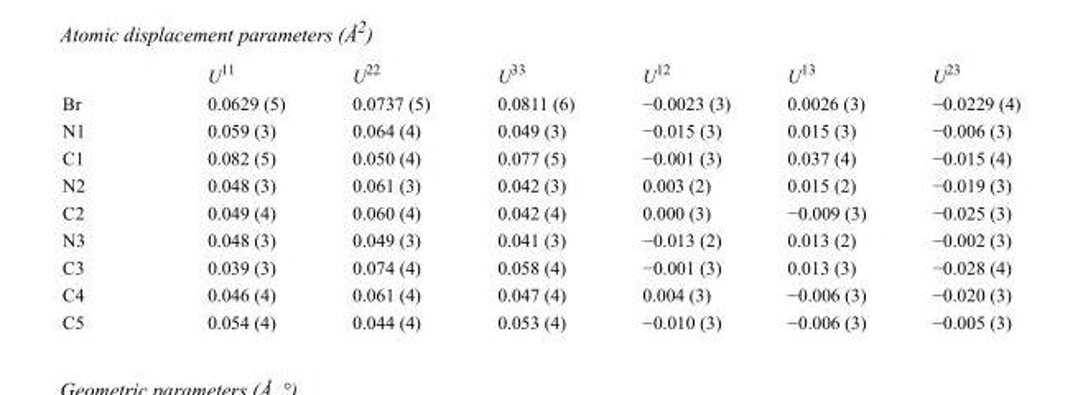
<table><thead><tr><td></td><td>U<sup>11</sup></td><td>U<sup>22</sup></td><td>U<sup>33</sup></td><td>U<sup>12</sup></td><td>U<sup>13</sup></td><td>U<sup>23</sup></td></tr></thead><tbody><tr><td>Br</td><td>0.0629 (5)</td><td>0.0737 (5)</td><td>0.0811 (6)</td><td>−0.0023 (3)</td><td>0.0026 (3)</td><td>−0.0229 (4)</td></tr><tr><td>N1</td><td>0.059 (3)</td><td>0.064 (4)</td><td>0.049 (3)</td><td>−0.015 (3)</td><td>0.015 (3)</td><td>−0.006 (3)</td></tr><tr><td>C1</td><td>0.082 (5)</td><td>0.050 (4)</td><td>0.077 (5)</td><td>−0.001 (3)</td><td>0.037 (4)</td><td>−0.015 (4)</td></tr><tr><td>N2</td><td>0.048 (3)</td><td>0.061 (3)</td><td>0.042 (3)</td><td>0.003 (2)</td><td>0.015 (2)</td><td>−0.019 (3)</td></tr><tr><td>C2</td><td>0.049 (4)</td><td>0.060 (4)</td><td>0.042 (4)</td><td>0.000 (3)</td><td>−0.009 (3)</td><td>−0.025 (3)</td></tr><tr><td>N3</td><td>0.048 (3)</td><td>0.049 (3)</td><td>0.041 (3)</td><td>−0.013 (2)</td><td>0.013 (2)</td><td>−0.002 (3)</td></tr><tr><td>C3</td><td>0.039 (3)</td><td>0.074 (4)</td><td>0.058 (4)</td><td>−0.001 (3)</td><td>0.013 (3)</td><td>−0.028 (4)</td></tr><tr><td>C4</td><td>0.046 (4)</td><td>0.061 (4)</td><td>0.047 (4)</td><td>0.004 (3)</td><td>−0.006 (3)</td><td>−0.020 (3)</td></tr><tr><td>C5</td><td>0.054 (4)</td><td>0.044 (4)</td><td>0.053 (4)</td><td>−0.010 (3)</td><td>−0.006 (3)</td><td>−0.005 (3)</td></tr></tbody></table>